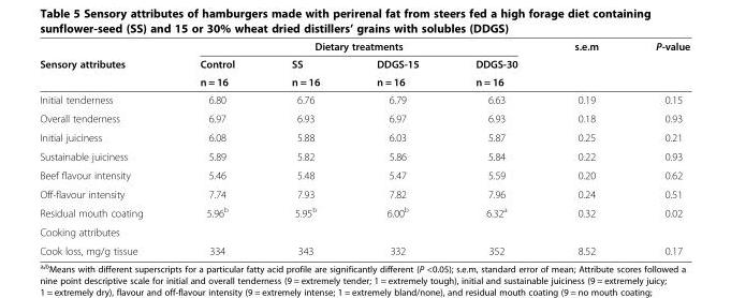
<table><thead><tr><td rowspan="3">Sensory attributes</td><td colspan="4">Dietary treatments</td><td rowspan="3">s.e.m</td><td rowspan="3">P-value</td></tr><tr><td rowspan="2">Control n = 16</td><td rowspan="2">SS n = 16</td><td rowspan="2">DDGS-15 n = 16</td><td rowspan="2">DDGS-30 n = 16</td></tr><tr></tr></thead><tbody><tr><td>Initial tenderness</td><td>6.80</td><td>6.76</td><td>6.79</td><td>6.63</td><td>0.19</td><td>0.15</td></tr><tr><td>Overall tenderness</td><td>6.97</td><td>6.93</td><td>6.97</td><td>6.93</td><td>0.18</td><td>0.93</td></tr><tr><td>Initial juiciness</td><td>6.08</td><td>5.88</td><td>6.03</td><td>5.87</td><td>0.25</td><td>0.21</td></tr><tr><td>Sustainable juiciness</td><td>5.89</td><td>5.82</td><td>5.86</td><td>5.84</td><td>0.22</td><td>0.93</td></tr><tr><td>Beef flavour intensity</td><td>5.46</td><td>5.48</td><td>5.47</td><td>5.59</td><td>0.20</td><td>0.62</td></tr><tr><td>Off-flavour intensity</td><td>7.74</td><td>7.93</td><td>7.82</td><td>7.96</td><td>0.24</td><td>0.51</td></tr><tr><td>Residual mouth coating</td><td>5.96<sup>b</sup></td><td>5.95<sup>b</sup></td><td>6.00<sup>b</sup></td><td>6.32<sup>a</sup></td><td>0.32</td><td>0.02</td></tr><tr><td colspan="7">Cooking attributes</td></tr><tr><td>Cook loss, mg/g tissue</td><td>334</td><td>343</td><td>332</td><td>352</td><td>8.52</td><td>0.17</td></tr></tbody></table>